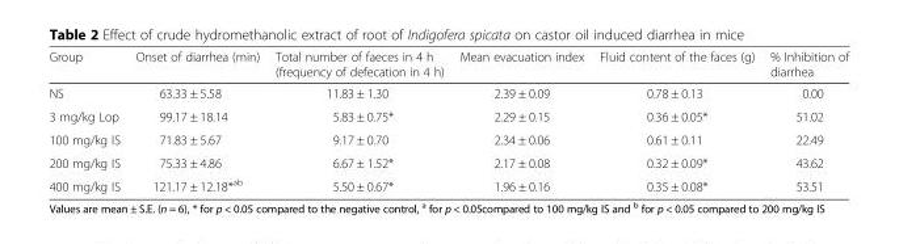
<table><thead><tr><td>Group</td><td>Onset of diarrhea (min)</td><td>Total number of faeces in 4 h (frequency of defecation in 4 h)</td><td>Mean evacuation index</td><td>Fluid content of the faces (g)</td><td>% Inhibition of diarrhea</td></tr></thead><tbody><tr><td>NS</td><td>63.33 ± 5.58</td><td>11.83 ± 1.30</td><td>2.39 ± 0.09</td><td>0.78 ± 0.13</td><td>0.00</td></tr><tr><td>3 mg/kg Lop</td><td>99.17 ± 18.14</td><td>5.83 ± 0.75*</td><td>2.29 ± 0.15</td><td>0.36 ± 0.05*</td><td>51.02</td></tr><tr><td>100 mg/kg IS</td><td>71.83 ± 5.67</td><td>9.17 ± 0.70</td><td>2.34 ± 0.06</td><td>0.61 ± 0.11</td><td>22.49</td></tr><tr><td>200 mg/kg IS</td><td>75.33 ± 4.86</td><td>6.67 ± 1.52*</td><td>2.17 ± 0.08</td><td>0.32 ± 0.09*</td><td>43.62</td></tr><tr><td>400 mg/kg IS</td><td>121.17 ± 12.18*<sup>ab</sup></td><td>5.50 ± 0.67*</td><td>1.96 ± 0.16</td><td>0.35 ± 0.08*</td><td>53.51</td></tr></tbody></table>